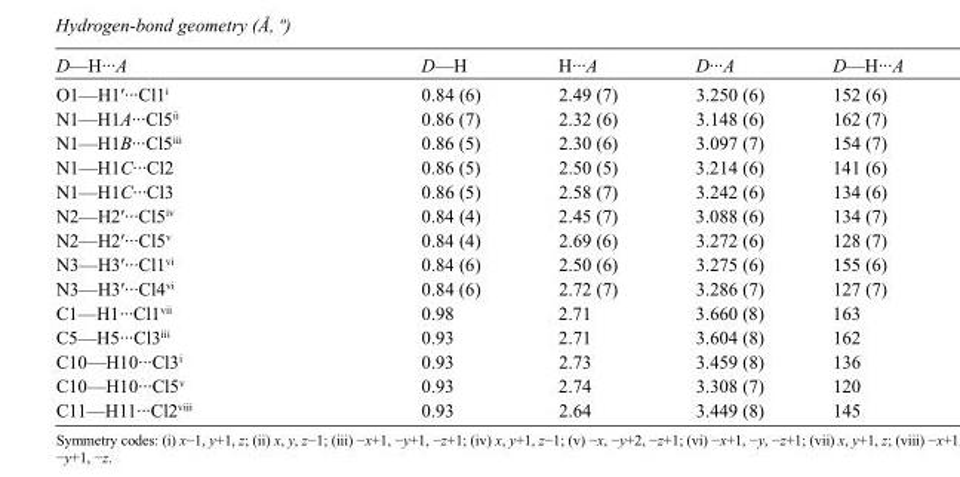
<table><tbody><tr><td>D—H···A</td><td>D—H</td><td>H···A</td><td>D···A</td><td>D—H···A</td></tr><tr><td>O1—H1′···Cl1<sup>i</sup></td><td>0.84 (6)</td><td>2.49 (7)</td><td>3.250 (6)</td><td>152 (6)</td></tr><tr><td>N1—H1A···Cl5<sup>ii</sup></td><td>0.86 (7)</td><td>2.32 (6)</td><td>3.148 (6)</td><td>162 (7)</td></tr><tr><td>N1—H1B···Cl5<sup>iii</sup></td><td>0.86 (5)</td><td>2.30 (6)</td><td>3.097 (7)</td><td>154 (7)</td></tr><tr><td>N1—H1C···Cl2</td><td>0.86 (5)</td><td>2.50 (5)</td><td>3.214 (6)</td><td>141 (6)</td></tr><tr><td>N1—H1C···Cl3</td><td>0.86 (5)</td><td>2.58 (7)</td><td>3.242 (6)</td><td>134 (6)</td></tr><tr><td>N2—H2′···Cl5<sup>iv</sup></td><td>0.84 (4)</td><td>2.45 (7)</td><td>3.088 (6)</td><td>134 (7)</td></tr><tr><td>N2—H2′···Cl5<sup>v</sup></td><td>0.84 (4)</td><td>2.69 (6)</td><td>3.272 (6)</td><td>128 (7)</td></tr><tr><td>N3—H3′···Cl1<sup>vi</sup></td><td>0.84 (6)</td><td>2.50 (6)</td><td>3.275 (6)</td><td>155 (6)</td></tr><tr><td>N3—H3′···Cl4<sup>vi</sup></td><td>0.84 (6)</td><td>2.72 (7)</td><td>3.286 (7)</td><td>127 (7)</td></tr><tr><td>C1—H1···Cl1<sup>vii</sup></td><td>0.98</td><td>2.71</td><td>3.660 (8)</td><td>163</td></tr><tr><td>C5—H5···Cl3<sup>iii</sup></td><td>0.93</td><td>2.71</td><td>3.604 (8)</td><td>162</td></tr><tr><td>C10—H10···Cl3<sup>i</sup></td><td>0.93</td><td>2.73</td><td>3.459 (8)</td><td>136</td></tr><tr><td>C10—H10···Cl5<sup>v</sup></td><td>0.93</td><td>2.74</td><td>3.308 (7)</td><td>120</td></tr><tr><td>C11—H11···Cl2<sup>viii</sup></td><td>0.93</td><td>2.64</td><td>3.449 (8)</td><td>145</td></tr></tbody></table>